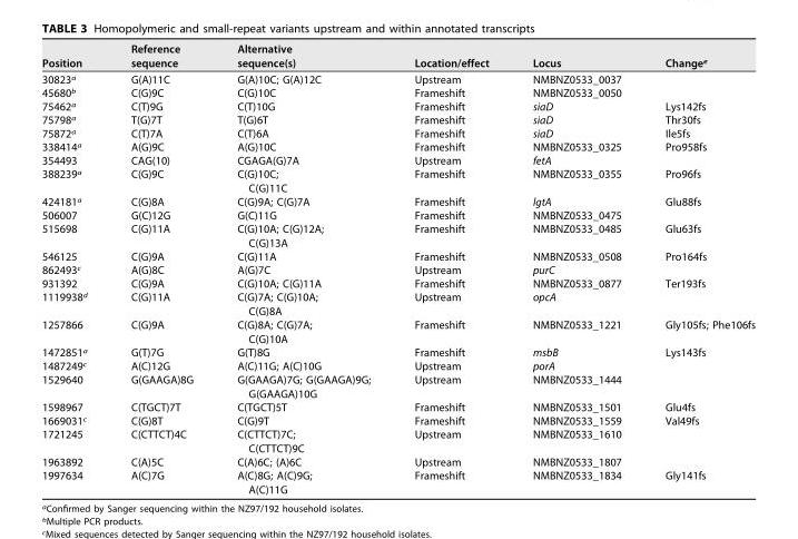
<table><thead><tr><td>Position</td><td>Reference sequence</td><td>Alternative sequence(s)</td><td>Location/effect</td><td>Locus</td><td>Change<sup>e</sup></td></tr></thead><tbody><tr><td>30823<sup>a</sup></td><td>G(A)11C</td><td>G(A)10C; G(A)12C</td><td>Upstream</td><td>NMBNZ0533_0037</td><td></td></tr><tr><td>45680<sup>b</sup></td><td>C(G)9C</td><td>C(G)10C</td><td>Frameshift</td><td>NMBNZ0533_0050</td><td></td></tr><tr><td>75462<sup>a</sup></td><td>C(T)9G</td><td>C(T)10G</td><td>Frameshift</td><td>siaD</td><td>Lys142fs</td></tr><tr><td>75798<sup>a</sup></td><td>T(G)7T</td><td>T(G)6T</td><td>Frameshift</td><td>siaD</td><td>Thr30fs</td></tr><tr><td>75872<sup>a</sup></td><td>C(T)7A</td><td>C(T)6A</td><td>Frameshift</td><td>siaD</td><td>Ile5fs</td></tr><tr><td>338414<sup>a</sup></td><td>A(G)9C</td><td>A(G)10C</td><td>Frameshift</td><td>NMBNZ0533_0325</td><td>Pro958fs</td></tr><tr><td>354493</td><td>CAG(10)</td><td>CGAGA(G)7A</td><td>Upstream</td><td>fetA</td><td></td></tr><tr><td>388239<sup>a</sup></td><td>C(G)9C</td><td>C(G)10C; C(G)11C</td><td>Frameshift</td><td>NMBNZ0533_0355</td><td>Pro96fs</td></tr><tr><td>424181<sup>a</sup></td><td>C(G)8A</td><td>C(G)9A; C(G)7A</td><td>Frameshift</td><td>lgtA</td><td>Glu88fs</td></tr><tr><td>506007</td><td>G(C)12G</td><td>G(C)11G</td><td>Frameshift</td><td>NMBNZ0533_0475</td><td></td></tr><tr><td>515698</td><td>C(G)11A</td><td>C(G)10A; C(G)12A; C(G)13A</td><td>Frameshift</td><td>NMBNZ0533_0485</td><td>Glu63fs</td></tr><tr><td>546125</td><td>C(G)9A</td><td>C(G)11A</td><td>Frameshift</td><td>NMBNZ0533_0508</td><td>Pro164fs</td></tr><tr><td>862493<sup>c</sup></td><td>A(G)8C</td><td>A(G)7C</td><td>Upstream</td><td>purC</td><td></td></tr><tr><td>931392</td><td>C(G)9A</td><td>C(G)10A; C(G)11A</td><td>Frameshift</td><td>NMBNZ0533_0877</td><td>Ter193fs</td></tr><tr><td>1119938<sup>d</sup></td><td>C(G)11A</td><td>C(G)7A; C(G)10A; C(G)8A</td><td>Upstream</td><td>opcA</td><td></td></tr><tr><td>1257866</td><td>C(G)9A</td><td>C(G)8A; C(G)7A; C(G)10A</td><td>Frameshift</td><td>NMBNZ0533_1221</td><td>Gly105fs; Phe106fs</td></tr><tr><td>1472851<sup>a</sup></td><td>G(T)7G</td><td>G(T)8G</td><td>Frameshift</td><td>msbB</td><td>Lys143fs</td></tr><tr><td>1487249<sup>c</sup></td><td>A(C)12G</td><td>A(C)11G; A(C)10G</td><td>Upstream</td><td>porA</td><td></td></tr><tr><td>1529640</td><td>G(GAAGA)8G</td><td>G(GAAGA)7G; G(GAAGA)9G; G(GAAGA)10G</td><td>Upstream</td><td>NMBNZ0533_1444</td><td></td></tr><tr><td>1598967</td><td>C(TGCT)7T</td><td>C(TGCT)5T</td><td>Frameshift</td><td>NMBNZ0533_1501</td><td>Glu4fs</td></tr><tr><td>1669031<sup>c</sup></td><td>C(G)8T</td><td>C(G)9T</td><td>Frameshift</td><td>NMBNZ0533_1559</td><td>Val49fs</td></tr><tr><td>1721245</td><td>C(CTTCT)4C</td><td>C(CTTCT)7C; C(CTTCT)9C</td><td>Upstream</td><td>NMBNZ0533_1610</td><td></td></tr><tr><td>1963892</td><td>C(A)5C</td><td>C(A)6C; (A)6C</td><td>Upstream</td><td>NMBNZ0533_1807</td><td></td></tr><tr><td>1997634</td><td>A(C)7G</td><td>A(C)8G; A(C)9G; A(C)11G</td><td>Frameshift</td><td>NMBNZ0533_1834</td><td>Gly141fs</td></tr></tbody></table>